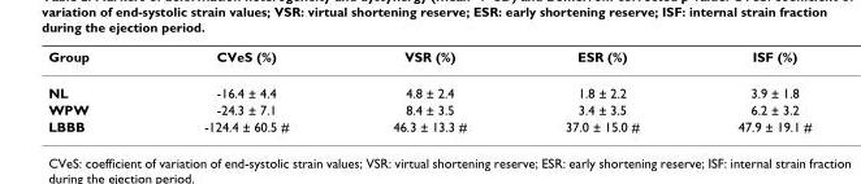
<table><thead><tr><td>Group</td><td>CVeS (%)</td><td>VSR (%)</td><td>ESR (%)</td><td>ISF (%)</td></tr></thead><tbody><tr><td>NL</td><td>-16.4 ± 4.4</td><td>4.8 ± 2.4</td><td>1.8 ± 2.2</td><td>3.9 ± 1.8</td></tr><tr><td>WPW</td><td>-24.3 ± 7.1</td><td>8.4 ± 3.5</td><td>3.4 ± 3.5</td><td>6.2 ± 3.2</td></tr><tr><td>LBBB</td><td>-124.4 ± 60.5 #</td><td>46.3 ± 13.3 #</td><td>37.0 ± 15.0 #</td><td>47.9 ± 19.1 #</td></tr></tbody></table>